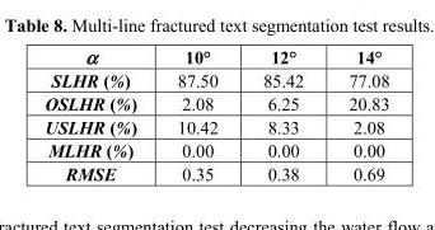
<table><thead><tr><td>α</td><td>10°</td><td>12°</td><td>14°</td></tr></thead><tbody><tr><td>SLHR (%)</td><td>87.50</td><td>85.42</td><td>77.08</td></tr><tr><td>OSLHR (%)</td><td>2.08</td><td>6.25</td><td>20.83</td></tr><tr><td>USLHR (%)</td><td>10.42</td><td>8.33</td><td>2.08</td></tr><tr><td>MLHR (%)</td><td>0.00</td><td>0.00</td><td>0.00</td></tr><tr><td>RMSE</td><td>0.35</td><td>0.38</td><td>0.69</td></tr></tbody></table>